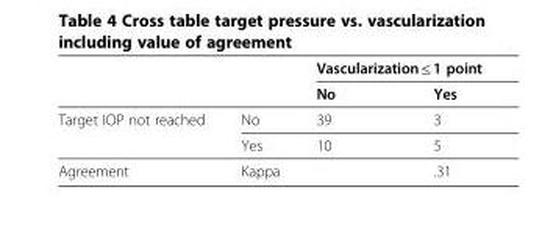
<table><thead><tr><td rowspan="2"></td><td rowspan="2"></td><td colspan="2">Vascularization ≤ 1 point</td></tr><tr><td>No</td><td>Yes</td></tr></thead><tbody><tr><td rowspan="2">Target IOP not reached</td><td>No</td><td>39</td><td>3</td></tr><tr><td>Yes</td><td>10</td><td>5</td></tr><tr><td>Agreement</td><td>Kappa</td><td></td><td>.31</td></tr></tbody></table>